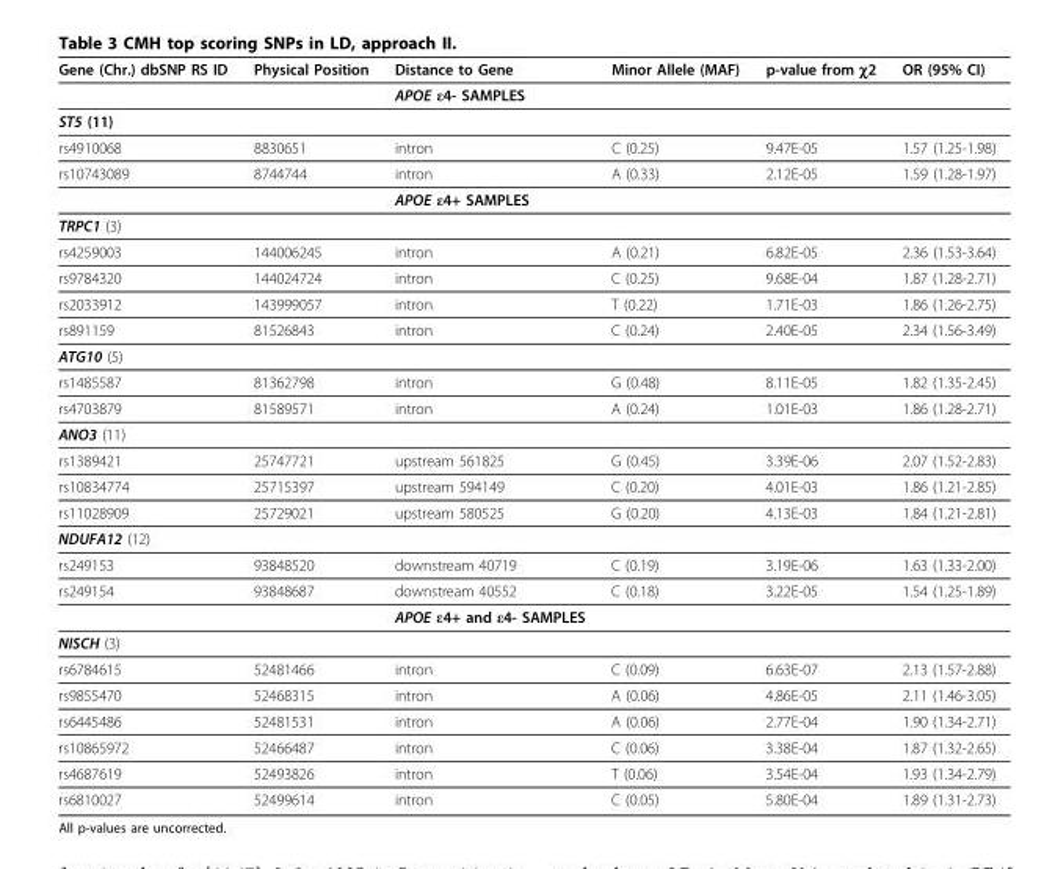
<table><thead><tr><td>Gene (Chr.) dbSNP RS ID</td><td>Physical Position</td><td>Distance to Gene</td><td>Minor Allele (MAF)</td><td>p-value from χ2</td><td>OR (95% CI)</td></tr></thead><tbody><tr><td></td><td></td><td>APOE ε4- SAMPLES</td><td></td><td></td><td></td></tr><tr><td colspan="6">ST5 (11)</td></tr><tr><td>rs4910068</td><td>8830651</td><td>intron</td><td>C (0.25)</td><td>9.47E-05</td><td>1.57 (1.25-1.98)</td></tr><tr><td rowspan="2">rs10743089</td><td>8744744</td><td>intron</td><td>A (0.33)</td><td>2.12E-05</td><td>1.59 (1.28-1.97)</td></tr><tr><td></td><td>APOE ε4+ SAMPLES</td><td></td><td></td><td></td></tr><tr><td colspan="6">TRPC1 (3)</td></tr><tr><td>rs4259003</td><td>144006245</td><td>intron</td><td>A (0.21)</td><td>6.82E-05</td><td>2.36 (1.53-3.64)</td></tr><tr><td>rs9784320</td><td>144024724</td><td>intron</td><td>C (0.25)</td><td>9.68E-04</td><td>1.87 (1.28-2.71)</td></tr><tr><td>rs2033912</td><td>143999057</td><td>intron</td><td>T (0.22)</td><td>1.71E-03</td><td>1.86 (1.26-2.75)</td></tr><tr><td>rs891159</td><td>81526843</td><td>intron</td><td>C (0.24)</td><td>2.40E-05</td><td>2.34 (1.56-3.49)</td></tr><tr><td colspan="6">ATG10 (5)</td></tr><tr><td>rs1485587</td><td>81362798</td><td>intron</td><td>G (0.48)</td><td>8.11E-05</td><td>1.82 (1.35-2.45)</td></tr><tr><td>rs4703879</td><td>81589571</td><td>intron</td><td>A (0.24)</td><td>1.01E-03</td><td>1.86 (1.28-2.71)</td></tr><tr><td colspan="6">ANO3 (11)</td></tr><tr><td>rs1389421</td><td>25747721</td><td>upstream 561825</td><td>G (0.45)</td><td>3.39E-06</td><td>2.07 (1.52-2.83)</td></tr><tr><td>rs10834774</td><td>25715397</td><td>upstream 594149</td><td>C (0.20)</td><td>4.01E-03</td><td>1.86 (1.21-2.85)</td></tr><tr><td>rs11028909</td><td>25729021</td><td>upstream 580525</td><td>G (0.20)</td><td>4.13E-03</td><td>1.84 (1.21-2.81)</td></tr><tr><td colspan="6">NDUFA12 (12)</td></tr><tr><td>rs249153</td><td>93848520</td><td>downstream 40719</td><td>C (0.19)</td><td>3.19E-06</td><td>1.63 (1.33-2.00)</td></tr><tr><td rowspan="2">rs249154</td><td>93848687</td><td>downstream 40552</td><td>C (0.18)</td><td>3.22E-05</td><td>1.54 (1.25-1.89)</td></tr><tr><td></td><td>APOE ε4+ and ε4- SAMPLES</td><td></td><td></td><td></td></tr><tr><td colspan="6">NISCH (3)</td></tr><tr><td>rs6784615</td><td>52481466</td><td>intron</td><td>C (0.09)</td><td>6.63E-07</td><td>2.13 (1.57-2.88)</td></tr><tr><td>rs9855470</td><td>52468315</td><td>intron</td><td>A (0.06)</td><td>4.86E-05</td><td>2.11 (1.46-3.05)</td></tr><tr><td>rs6445486</td><td>52481531</td><td>intron</td><td>A (0.06)</td><td>2.77E-04</td><td>1.90 (1.34-2.71)</td></tr><tr><td>rs10865972</td><td>52466487</td><td>intron</td><td>C (0.06)</td><td>3.38E-04</td><td>1.87 (1.32-2.65)</td></tr><tr><td>rs4687619</td><td>52493826</td><td>intron</td><td>T (0.06)</td><td>3.54E-04</td><td>1.93 (1.34-2.79)</td></tr><tr><td>rs6810027</td><td>52499614</td><td>intron</td><td>C (0.05)</td><td>5.80E-04</td><td>1.89 (1.31-2.73)</td></tr></tbody></table>